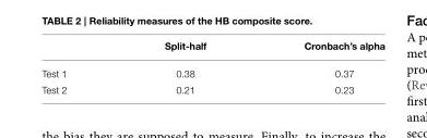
<table><thead><tr><td></td><td>Split-half</td><td>Cronbach’s alpha</td></tr></thead><tbody><tr><td>Test 1</td><td>0.38</td><td>0.37</td></tr><tr><td>Test 2</td><td>0.21</td><td>0.23</td></tr></tbody></table>